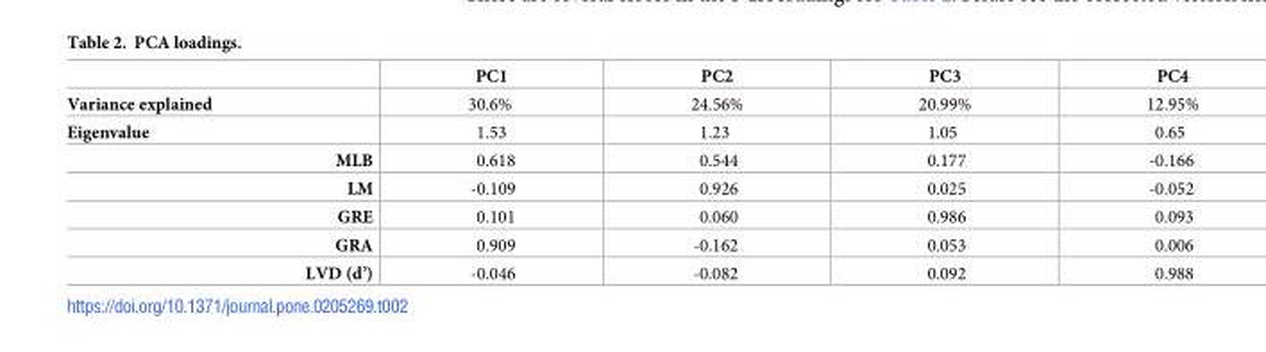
<table><thead><tr><td></td><td>PC1</td><td>PC2</td><td>PC3</td><td>PC4</td></tr></thead><tbody><tr><td>Variance explained</td><td>30.6%</td><td>24.56%</td><td>20.99%</td><td>12.95%</td></tr><tr><td>Eigenvalue</td><td>1.53</td><td>1.23</td><td>1.05</td><td>0.65</td></tr><tr><td>MLB</td><td>0.618</td><td>0.544</td><td>0.177</td><td>-0.166</td></tr><tr><td>LM</td><td>-0.109</td><td>0.926</td><td>0.025</td><td>-0.052</td></tr><tr><td>GRE</td><td>0.101</td><td>0.060</td><td>0.986</td><td>0.093</td></tr><tr><td>GRA</td><td>0.909</td><td>-0.162</td><td>0.053</td><td>0.006</td></tr><tr><td>LVD (d’)</td><td>-0.046</td><td>-0.082</td><td>0.092</td><td>0.988</td></tr></tbody></table>